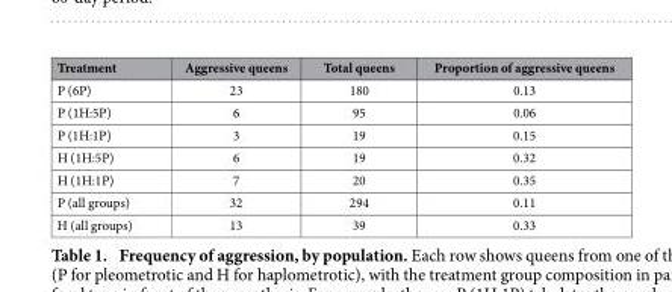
<table><thead><tr><td>Treatment</td><td>Aggressive queens</td><td>Total queens</td><td>Proportion of aggressive queens</td></tr></thead><tbody><tr><td>P (6P)</td><td>23</td><td>180</td><td>0.13</td></tr><tr><td>P (1H:5P)</td><td>6</td><td>95</td><td>0.06</td></tr><tr><td>P (1H:1P)</td><td>3</td><td>19</td><td>0.15</td></tr><tr><td>H (1H:5P)</td><td>6</td><td>19</td><td>0.32</td></tr><tr><td>H (1H:1P)</td><td>7</td><td>20</td><td>0.35</td></tr><tr><td>P (all groups)</td><td>32</td><td>294</td><td>0.11</td></tr><tr><td>H (all groups)</td><td>13</td><td>39</td><td>0.33</td></tr></tbody></table>